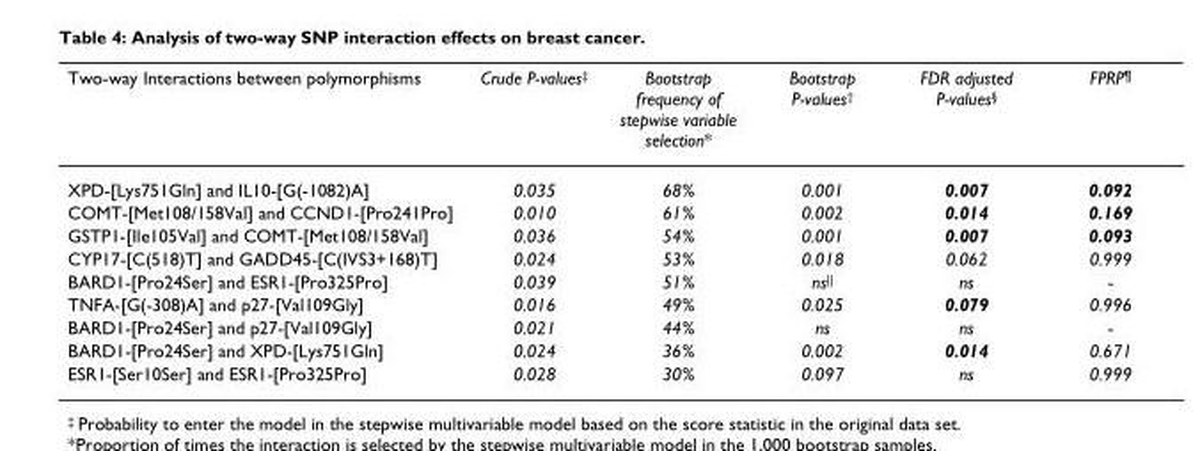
<table><thead><tr><td>Two-way Interactions between polymorphisms</td><td>Crude P-values‡</td><td>Bootstrap frequency of stepwise variable selection*</td><td>Bootstrap P-values†</td><td>FDR adjusted P-values§</td><td>FPRP¶</td></tr></thead><tbody><tr><td>XPD-[Lys751Gln] and IL10-[G(-1082)A]</td><td>0.035</td><td>68%</td><td>0.001</td><td>0.007</td><td>0.092</td></tr><tr><td>COMT-[Met108/158Val] and CCND1-[Pro241Pro]</td><td>0.010</td><td>61%</td><td>0.002</td><td>0.014</td><td>0.169</td></tr><tr><td>GSTP1-[Ile105Val] and COMT-[Met108/158Val]</td><td>0.036</td><td>54%</td><td>0.001</td><td>0.007</td><td>0.093</td></tr><tr><td>CYP17-[C(518)T] and GADD45-[C(IVS3+168)T]</td><td>0.024</td><td>53%</td><td>0.018</td><td>0.062</td><td>0.999</td></tr><tr><td>BARD1-[Pro24Ser] and ESR1-[Pro325Pro]</td><td>0.039</td><td>51%</td><td>ns||</td><td>ns</td><td>-</td></tr><tr><td>TNFA-[G(-308)A] and p27-[Val109Gly]</td><td>0.016</td><td>49%</td><td>0.025</td><td>0.079</td><td>0.996</td></tr><tr><td>BARD1-[Pro24Ser] and p27-[Val109Gly]</td><td>0.021</td><td>44%</td><td>ns</td><td>ns</td><td>-</td></tr><tr><td>BARD1-[Pro24Ser] and XPD-[Lys751Gln]</td><td>0.024</td><td>36%</td><td>0.002</td><td>0.014</td><td>0.671</td></tr><tr><td>ESR1-[Ser10Ser] and ESR1-[Pro325Pro]</td><td>0.028</td><td>30%</td><td>0.097</td><td>ns</td><td>0.999</td></tr></tbody></table>